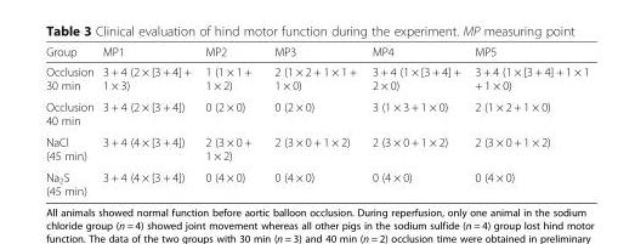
<table><thead><tr><td>Group</td><td>MP1</td><td>MP2</td><td>MP3</td><td>MP4</td><td>MP5</td></tr></thead><tbody><tr><td>Occlusion 30 min</td><td>3 + 4 (2 × [3 + 4] + 1 × 3)</td><td>1 (1 × 1 + 1 × 2)</td><td>2 (1 × 2 + 1 × 1 + 1 × 0)</td><td>3 + 4 (1 × [3 + 4] + 2 × 0)</td><td>3 + 4 (1 × [3 + 4] + 1 × 1 + 1 × 0)</td></tr><tr><td>Occlusion 40 min</td><td>3 + 4 (2 × [3 + 4])</td><td>0 (2 × 0)</td><td>0 (2 × 0)</td><td>3 (1 × 3 + 1 × 0)</td><td>2 (1 × 2 + 1 × 0)</td></tr><tr><td>NaCl (45 min)</td><td>3 + 4 (4 × [3 + 4])</td><td>2 (3 × 0 + 1 × 2)</td><td>2 (3 × 0 + 1 × 2)</td><td>2 (3 × 0 + 1 × 2)</td><td>2 (3 × 0 + 1 × 2)</td></tr><tr><td>Na<sub>2</sub>S (45 min)</td><td>3 + 4 (4 × [3 + 4])</td><td>0 (4 × 0)</td><td>0 (4 × 0)</td><td>0 (4 × 0)</td><td>0 (4 × 0)</td></tr></tbody></table>